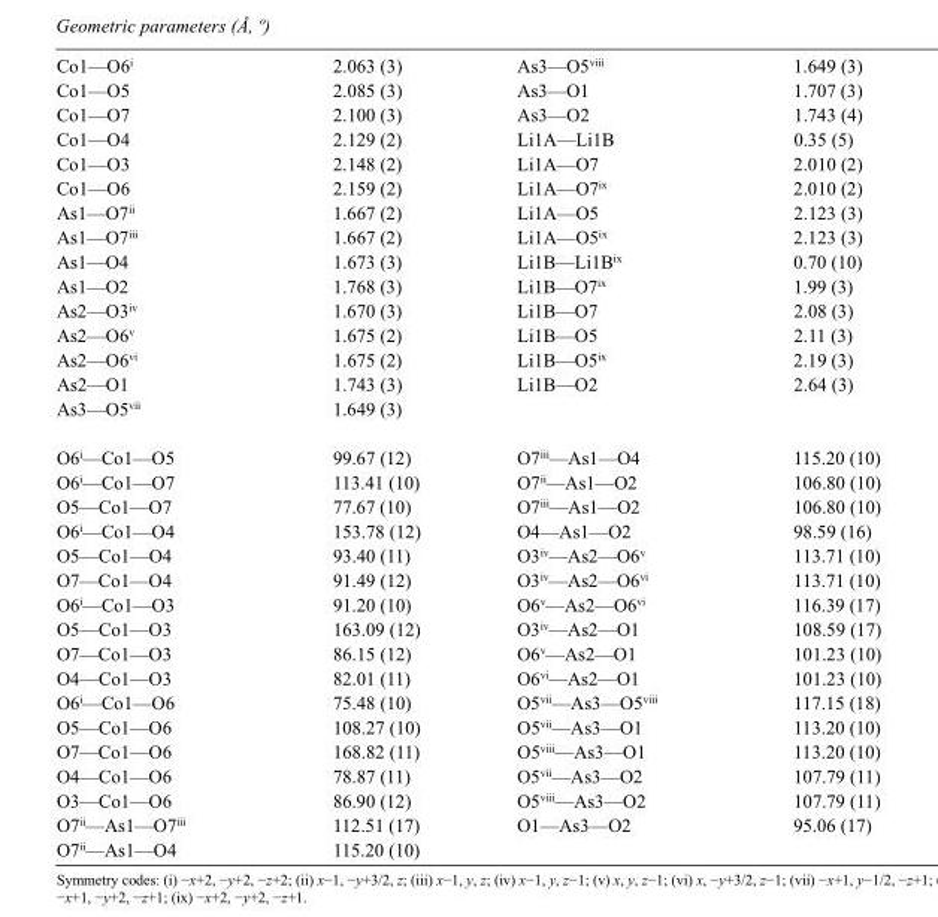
<table><tbody><tr><td>Co1—O6<sup>i</sup></td><td>2.063 (3)</td><td>As3—O5<sup>viii</sup></td><td>1.649 (3)</td></tr><tr><td>Co1—O5</td><td>2.085 (3)</td><td>As3—O1</td><td>1.707 (3)</td></tr><tr><td>Co1—O7</td><td>2.100 (3)</td><td>As3—O2</td><td>1.743 (4)</td></tr><tr><td>Co1—O4</td><td>2.129 (2)</td><td>Li1A—Li1B</td><td>0.35 (5)</td></tr><tr><td>Co1—O3</td><td>2.148 (2)</td><td>Li1A—O7</td><td>2.010 (2)</td></tr><tr><td>Co1—O6</td><td>2.159 (2)</td><td>Li1A—O7<sup>ix</sup></td><td>2.010 (2)</td></tr><tr><td>As1—O7<sup>ii</sup></td><td>1.667 (2)</td><td>Li1A—O5</td><td>2.123 (3)</td></tr><tr><td>As1—O7<sup>iii</sup></td><td>1.667 (2)</td><td>Li1A—O5<sup>ix</sup></td><td>2.123 (3)</td></tr><tr><td>As1—O4</td><td>1.673 (3)</td><td>Li1B—Li1B<sup>ix</sup></td><td>0.70 (10)</td></tr><tr><td>As1—O2</td><td>1.768 (3)</td><td>Li1B—O7<sup>ix</sup></td><td>1.99 (3)</td></tr><tr><td>As2—O3<sup>iv</sup></td><td>1.670 (3)</td><td>Li1B—O7</td><td>2.08 (3)</td></tr><tr><td>As2—O6<sup>v</sup></td><td>1.675 (2)</td><td>Li1B—O5</td><td>2.11 (3)</td></tr><tr><td>As2—O6<sup>vi</sup></td><td>1.675 (2)</td><td>Li1B—O5<sup>ix</sup></td><td>2.19 (3)</td></tr><tr><td>As2—O1</td><td>1.743 (3)</td><td>Li1B—O2</td><td>2.64 (3)</td></tr><tr><td>As3—O5<sup>vii</sup></td><td>1.649 (3)</td><td></td><td></td></tr><tr><td>O6<sup>i</sup>—Co1—O5</td><td>99.67 (12)</td><td>O7<sup>iii</sup>—As1—O4</td><td>115.20 (10)</td></tr><tr><td>O6<sup>i</sup>—Co1—O7</td><td>113.41 (10)</td><td>O7<sup>ii</sup>—As1—O2</td><td>106.80 (10)</td></tr><tr><td>O5—Co1—O7</td><td>77.67 (10)</td><td>O7<sup>iii</sup>—As1—O2</td><td>106.80 (10)</td></tr><tr><td>O6<sup>i</sup>—Co1—O4</td><td>153.78 (12)</td><td>O4—As1—O2</td><td>98.59 (16)</td></tr><tr><td>O5—Co1—O4</td><td>93.40 (11)</td><td>O3<sup>iv</sup>—As2—O6<sup>v</sup></td><td>113.71 (10)</td></tr><tr><td>O7—Co1—O4</td><td>91.49 (12)</td><td>O3<sup>iv</sup>—As2—O6<sup>vi</sup></td><td>113.71 (10)</td></tr><tr><td>O6<sup>i</sup>—Co1—O3</td><td>91.20 (10)</td><td>O6<sup>v</sup>—As2—O6<sup>vi</sup></td><td>116.39 (17)</td></tr><tr><td>O5—Co1—O3</td><td>163.09 (12)</td><td>O3<sup>iv</sup>—As2—O1</td><td>108.59 (17)</td></tr><tr><td>O7—Co1—O3</td><td>86.15 (12)</td><td>O6<sup>v</sup>—As2—O1</td><td>101.23 (10)</td></tr><tr><td>O4—Co1—O3</td><td>82.01 (11)</td><td>O6<sup>vi</sup>—As2—O1</td><td>101.23 (10)</td></tr><tr><td>O6<sup>i</sup>—Co1—O6</td><td>75.48 (10)</td><td>O5<sup>vii</sup>—As3—O5<sup>viii</sup></td><td>117.15 (18)</td></tr><tr><td>O5—Co1—O6</td><td>108.27 (10)</td><td>O5<sup>vii</sup>—As3—O1</td><td>113.20 (10)</td></tr><tr><td>O7—Co1—O6</td><td>168.82 (11)</td><td>O5<sup>viii</sup>—As3—O1</td><td>113.20 (10)</td></tr><tr><td>O4—Co1—O6</td><td>78.87 (11)</td><td>O5<sup>vii</sup>—As3—O2</td><td>107.79 (11)</td></tr><tr><td>O3—Co1—O6</td><td>86.90 (12)</td><td>O5<sup>viii</sup>—As3—O2</td><td>107.79 (11)</td></tr><tr><td>O7<sup>ii</sup>—As1—O7<sup>iii</sup></td><td>112.51 (17)</td><td>O1—As3—O2</td><td>95.06 (17)</td></tr><tr><td>O7<sup>ii</sup>—As1—O4</td><td>115.20 (10)</td><td></td><td></td></tr></tbody></table>